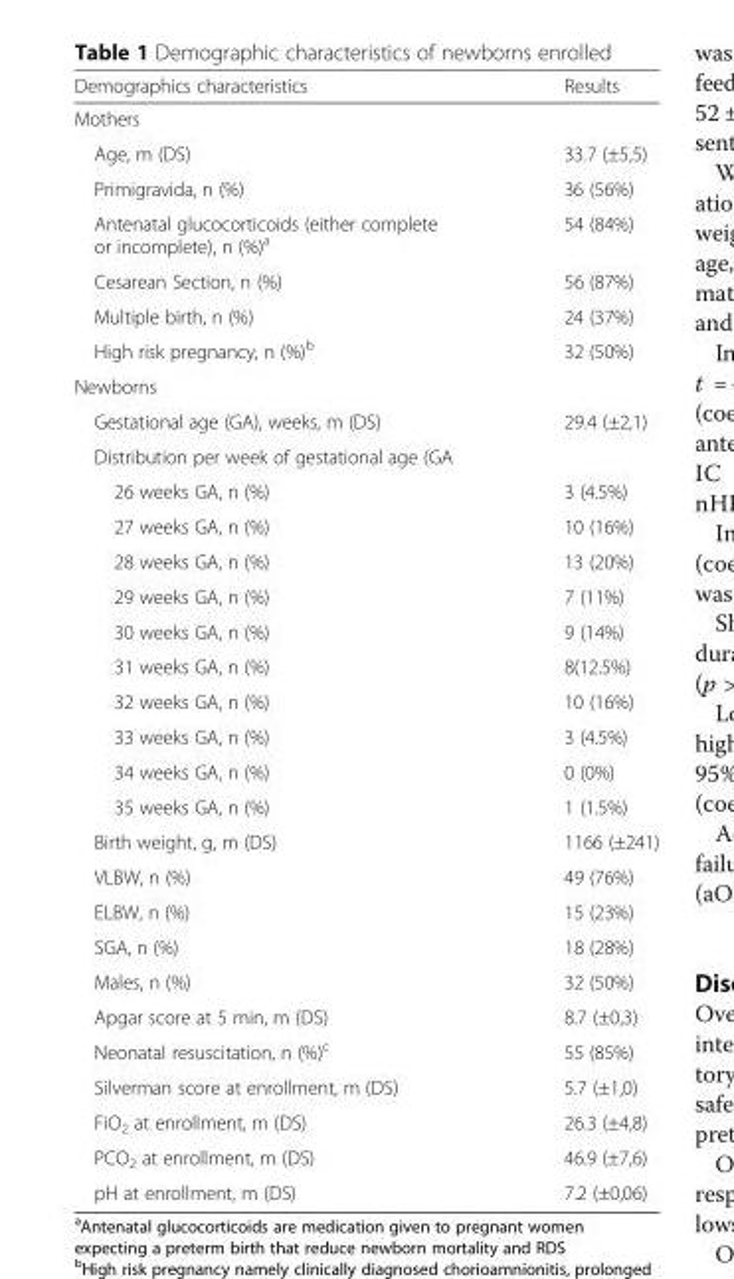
<table><thead><tr><td>Demographics characteristics</td><td>Results</td></tr></thead><tbody><tr><td colspan="2">Mothers</td></tr><tr><td>Age, m (DS)</td><td>33.7 (±5,5)</td></tr><tr><td>Primigravida, n (%)</td><td>36 (56%)</td></tr><tr><td>Antenatal glucocorticoids (either complete or incomplete), n (%)<sup>a</sup></td><td>54 (84%)</td></tr><tr><td>Cesarean Section, n (%)</td><td>56 (87%)</td></tr><tr><td>Multiple birth, n (%)</td><td>24 (37%)</td></tr><tr><td>High risk pregnancy, n (%)<sup>b</sup></td><td>32 (50%)</td></tr><tr><td colspan="2">Newborns</td></tr><tr><td>Gestational age (GA), weeks, m (DS)</td><td>29.4 (±2,1)</td></tr><tr><td colspan="2">Distribution per week of gestational age (GA</td></tr><tr><td>26 weeks GA, n (%)</td><td>3 (4.5%)</td></tr><tr><td>27 weeks GA, n (%)</td><td>10 (16%)</td></tr><tr><td>28 weeks GA, n (%)</td><td>13 (20%)</td></tr><tr><td>29 weeks GA, n (%)</td><td>7 (11%)</td></tr><tr><td>30 weeks GA, n (%)</td><td>9 (14%)</td></tr><tr><td>31 weeks GA, n (%)</td><td>8(12.5%)</td></tr><tr><td>32 weeks GA, n (%)</td><td>10 (16%)</td></tr><tr><td>33 weeks GA, n (%)</td><td>3 (4.5%)</td></tr><tr><td>34 weeks GA, n (%)</td><td>0 (0%)</td></tr><tr><td>35 weeks GA, n (%)</td><td>1 (1.5%)</td></tr><tr><td>Birth weight, g, m (DS)</td><td>1166 (±241)</td></tr><tr><td>VLBW, n (%)</td><td>49 (76%)</td></tr><tr><td>ELBW, n (%)</td><td>15 (23%)</td></tr><tr><td>SGA, n (%)</td><td>18 (28%)</td></tr><tr><td>Males, n (%)</td><td>32 (50%)</td></tr><tr><td>Apgar score at 5 min, m (DS)</td><td>8.7 (±0,3)</td></tr><tr><td>Neonatal resuscitation, n (%)<sup>c</sup></td><td>55 (85%)</td></tr><tr><td>Silverman score at enrollment, m (DS)</td><td>5.7 (±1,0)</td></tr><tr><td>FiO<sub>2</sub> at enrollment, m (DS)</td><td>26.3 (±4,8)</td></tr><tr><td>PCO<sub>2</sub> at enrollment, m (DS)</td><td>46.9 (±7,6)</td></tr><tr><td>pH at enrollment, m (DS)</td><td>7.2 (±0,06)</td></tr></tbody></table>